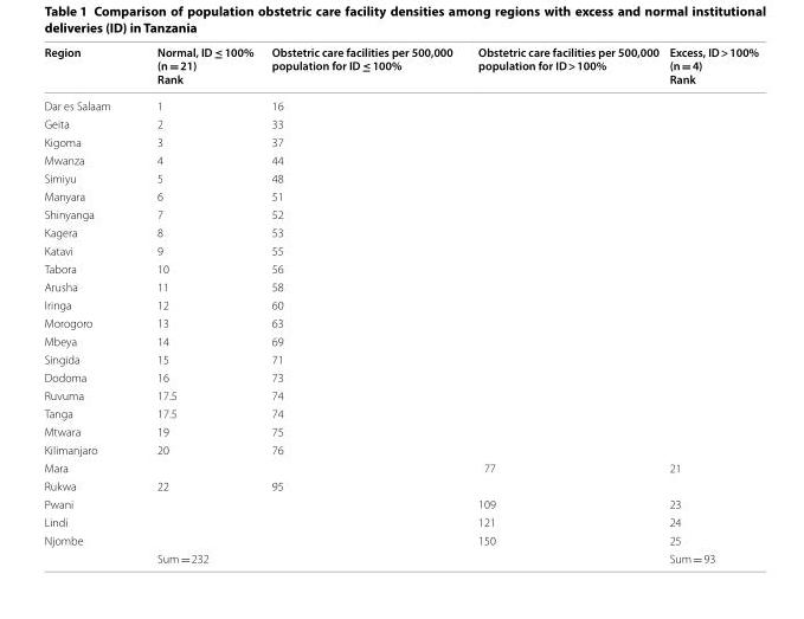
<table><thead><tr><td>Region</td><td>Normal, ID ≤ 100% (n = 21) Rank</td><td>Obstetric care facilities per 500,000 population for ID ≤ 100%</td><td>Obstetric care facilities per 500,000 population for ID &gt; 100%</td><td>Excess, ID &gt; 100% (n = 4) Rank</td></tr></thead><tbody><tr><td>Dar es Salaam</td><td>1</td><td>16</td><td></td><td></td></tr><tr><td>Geita</td><td>2</td><td>33</td><td></td><td></td></tr><tr><td>Kigoma</td><td>3</td><td>37</td><td></td><td></td></tr><tr><td>Mwanza</td><td>4</td><td>44</td><td></td><td></td></tr><tr><td>Simiyu</td><td>5</td><td>48</td><td></td><td></td></tr><tr><td>Manyara</td><td>6</td><td>51</td><td></td><td></td></tr><tr><td>Shinyanga</td><td>7</td><td>52</td><td></td><td></td></tr><tr><td>Kagera</td><td>8</td><td>53</td><td></td><td></td></tr><tr><td>Katavi</td><td>9</td><td>55</td><td></td><td></td></tr><tr><td>Tabora</td><td>10</td><td>56</td><td></td><td></td></tr><tr><td>Arusha</td><td>11</td><td>58</td><td></td><td></td></tr><tr><td>Iringa</td><td>12</td><td>60</td><td></td><td></td></tr><tr><td>Morogoro</td><td>13</td><td>63</td><td></td><td></td></tr><tr><td>Mbeya</td><td>14</td><td>69</td><td></td><td></td></tr><tr><td>Singida</td><td>15</td><td>71</td><td></td><td></td></tr><tr><td>Dodoma</td><td>16</td><td>73</td><td></td><td></td></tr><tr><td>Ruvuma</td><td>17.5</td><td>74</td><td></td><td></td></tr><tr><td>Tanga</td><td>17.5</td><td>74</td><td></td><td></td></tr><tr><td>Mtwara</td><td>19</td><td>75</td><td></td><td></td></tr><tr><td>Kilimanjaro</td><td>20</td><td>76</td><td></td><td></td></tr><tr><td>Mara</td><td></td><td></td><td>77</td><td>21</td></tr><tr><td>Rukwa</td><td>22</td><td>95</td><td></td><td></td></tr><tr><td>Pwani</td><td></td><td></td><td>109</td><td>23</td></tr><tr><td>Lindi</td><td></td><td></td><td>121</td><td>24</td></tr><tr><td rowspan="2">Njombe</td><td></td><td></td><td>150</td><td>25</td></tr><tr><td>Sum = 232</td><td></td><td></td><td>Sum = 93</td></tr></tbody></table>